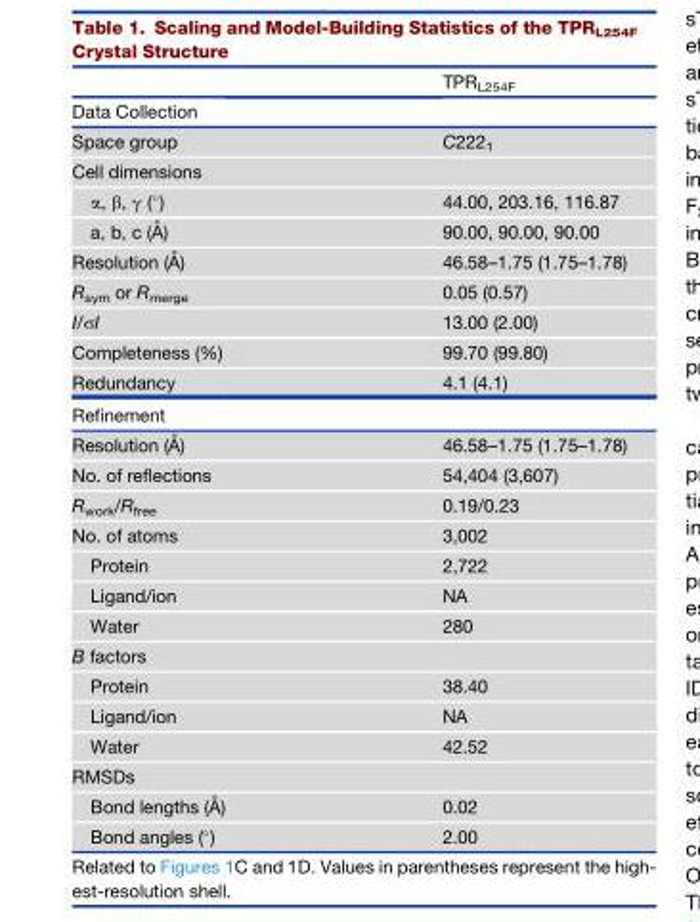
<table><thead><tr><td></td><td>TPR<sub>L254F</sub></td></tr></thead><tbody><tr><td colspan="2">Data Collection</td></tr><tr><td>Space group</td><td>C222<sub>1</sub></td></tr><tr><td colspan="2">Cell dimensions</td></tr><tr><td>α, β, γ (°)</td><td>44.00, 203.16, 116.87</td></tr><tr><td>a, b, c (A˚ )</td><td>90.00, 90.00, 90.00</td></tr><tr><td>Resolution (A˚ )</td><td>46.58–1.75 (1.75–1.78)</td></tr><tr><td>R<sub>sym</sub> or R<sub>merge</sub></td><td>0.05 (0.57)</td></tr><tr><td>I/σI</td><td>13.00 (2.00)</td></tr><tr><td>Completeness (%)</td><td>99.70 (99.80)</td></tr><tr><td>Redundancy</td><td>4.1 (4.1)</td></tr><tr><td colspan="2">Refinement</td></tr><tr><td>Resolution (A˚ )</td><td>46.58–1.75 (1.75–1.78)</td></tr><tr><td>No. of reflections</td><td>54,404 (3,607)</td></tr><tr><td>R<sub>work</sub>/R<sub>free</sub></td><td>0.19/0.23</td></tr><tr><td>No. of atoms</td><td>3,002</td></tr><tr><td>Protein</td><td>2,722</td></tr><tr><td>Ligand/ion</td><td>NA</td></tr><tr><td>Water</td><td>280</td></tr><tr><td colspan="2">B factors</td></tr><tr><td>Protein</td><td>38.40</td></tr><tr><td>Ligand/ion</td><td>NA</td></tr><tr><td>Water</td><td>42.52</td></tr><tr><td colspan="2">RMSDs</td></tr><tr><td>Bond lengths (A˚ )</td><td>0.02</td></tr><tr><td>Bond angles (°)</td><td>2.00</td></tr></tbody></table>